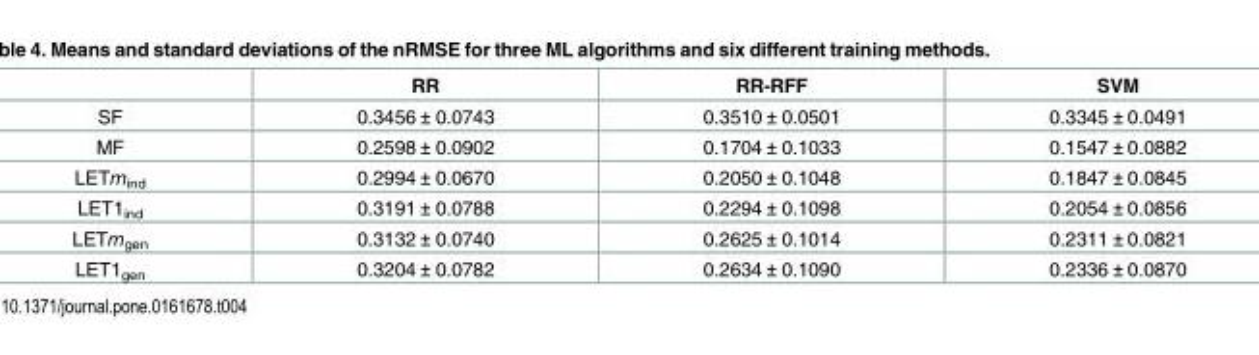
<table><thead><tr><td></td><td>RR</td><td>RR-RFF</td><td>SVM</td></tr></thead><tbody><tr><td>SF</td><td>0.3456 ± 0.0743</td><td>0.3510 ± 0.0501</td><td>0.3345 ± 0.0491</td></tr><tr><td>MF</td><td>0.2598 ± 0.0902</td><td>0.1704 ± 0.1033</td><td>0.1547 ± 0.0882</td></tr><tr><td>LETm<sub>ind</sub></td><td>0.2994 ± 0.0670</td><td>0.2050 ± 0.1048</td><td>0.1847 ± 0.0845</td></tr><tr><td>LET1<sub>ind</sub></td><td>0.3191 ± 0.0788</td><td>0.2294 ± 0.1098</td><td>0.2054 ± 0.0856</td></tr><tr><td>LETm<sub>gen</sub></td><td>0.3132 ± 0.0740</td><td>0.2625 ± 0.1014</td><td>0.2311 ± 0.0821</td></tr><tr><td>LET1<sub>gen</sub></td><td>0.3204 ± 0.0782</td><td>0.2634 ± 0.1090</td><td>0.2336 ± 0.0870</td></tr></tbody></table>